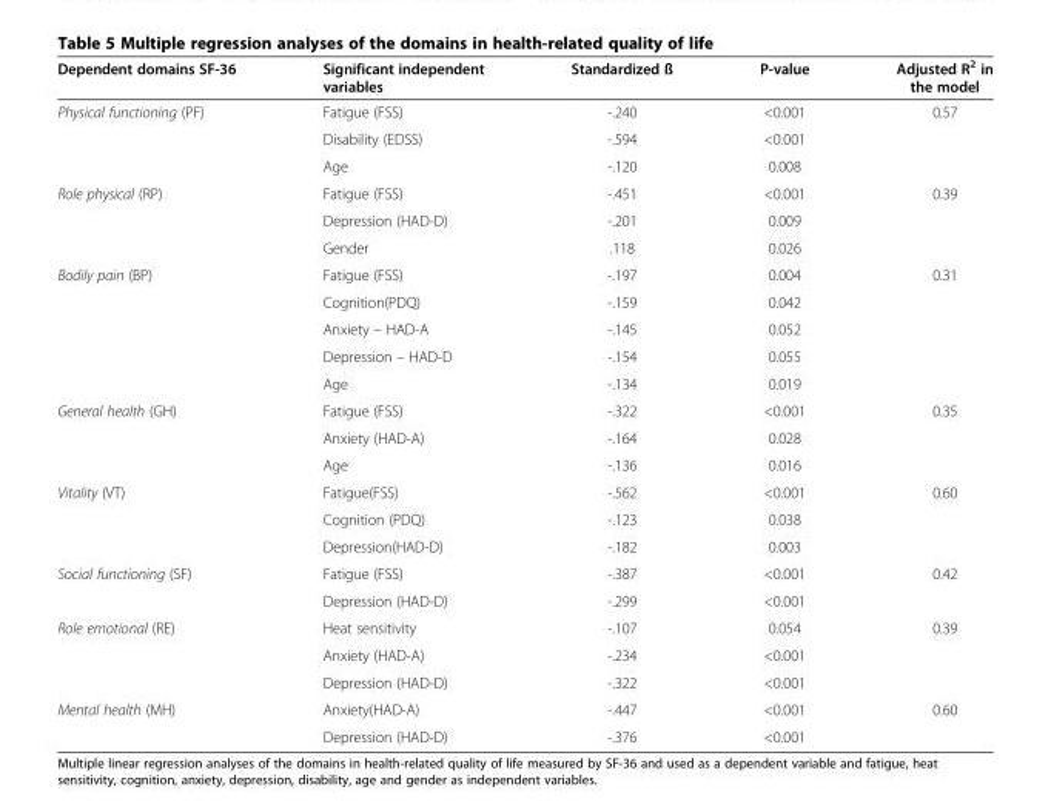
<table><thead><tr><td>Dependent domains SF-36</td><td>Significant independent variables</td><td>Standardized ß</td><td>P-value</td><td>Adjusted R<sup>2</sup> in the model</td></tr></thead><tbody><tr><td rowspan="3">Physical functioning (PF)</td><td>Fatigue (FSS)</td><td>-.240</td><td>&lt;0.001</td><td rowspan="3">0.57</td></tr><tr><td>Disability (EDSS)</td><td>-.594</td><td>&lt;0.001</td></tr><tr><td>Age</td><td>-.120</td><td>0.008</td></tr><tr><td rowspan="3">Role physical (RP)</td><td>Fatigue (FSS)</td><td>-.451</td><td>&lt;0.001</td><td rowspan="3">0.39</td></tr><tr><td>Depression (HAD-D)</td><td>-.201</td><td>0.009</td></tr><tr><td>Gender</td><td>.118</td><td>0.026</td></tr><tr><td rowspan="5">Bodily pain (BP)</td><td>Fatigue (FSS)</td><td>-.197</td><td>0.004</td><td rowspan="5">0.31</td></tr><tr><td>Cognition(PDQ)</td><td>-.159</td><td>0.042</td></tr><tr><td>Anxiety – HAD-A</td><td>-.145</td><td>0.052</td></tr><tr><td>Depression – HAD-D</td><td>-.154</td><td>0.055</td></tr><tr><td>Age</td><td>-.134</td><td>0.019</td></tr><tr><td rowspan="3">General health (GH)</td><td>Fatigue (FSS)</td><td>-.322</td><td>&lt;0.001</td><td rowspan="3">0.35</td></tr><tr><td>Anxiety (HAD-A)</td><td>-.164</td><td>0.028</td></tr><tr><td>Age</td><td>-.136</td><td>0.016</td></tr><tr><td rowspan="3">Vitality (VT)</td><td>Fatigue(FSS)</td><td>-.562</td><td>&lt;0.001</td><td rowspan="3">0.60</td></tr><tr><td>Cognition (PDQ)</td><td>-.123</td><td>0.038</td></tr><tr><td>Depression(HAD-D)</td><td>-.182</td><td>0.003</td></tr><tr><td rowspan="2">Social functioning (SF)</td><td>Fatigue (FSS)</td><td>-.387</td><td>&lt;0.001</td><td rowspan="2">0.42</td></tr><tr><td>Depression (HAD-D)</td><td>-.299</td><td>&lt;0.001</td></tr><tr><td rowspan="3">Role emotional (RE)</td><td>Heat sensitivity</td><td>-.107</td><td>0.054</td><td rowspan="3">0.39</td></tr><tr><td>Anxiety (HAD-A)</td><td>-.234</td><td>&lt;0.001</td></tr><tr><td>Depression (HAD-D)</td><td>-.322</td><td>&lt;0.001</td></tr><tr><td rowspan="2">Mental health (MH)</td><td>Anxiety(HAD-A)</td><td>-.447</td><td>&lt;0.001</td><td>0.60</td></tr><tr><td>Depression (HAD-D)</td><td>-.376</td><td>&lt;0.001</td><td></td></tr></tbody></table>